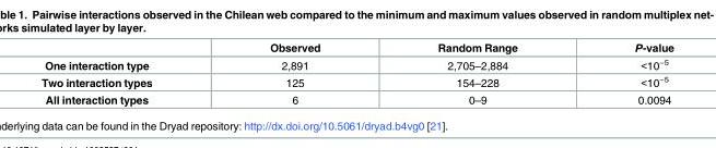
<table><thead><tr><td></td><td>Observed</td><td>Random Range</td><td>P-value</td></tr></thead><tbody><tr><td>One interaction type</td><td>2,891</td><td>2,705–2,884</td><td>&lt;10<sup>−5</sup></td></tr><tr><td>Two interaction types</td><td>125</td><td>154–228</td><td>&lt;10<sup>−5</sup></td></tr><tr><td>All interaction types</td><td>6</td><td>0–9</td><td>0.0094</td></tr></tbody></table>